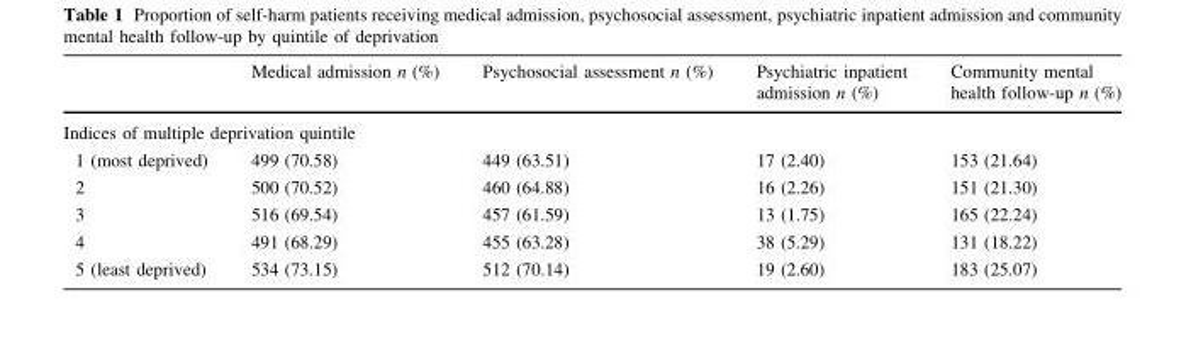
<table><thead><tr><td></td><td>Medical admission n (%)</td><td>Psychosocial assessment n (%)</td><td>Psychiatric inpatient admission n (%)</td><td>Community mental health follow-up n (%)</td></tr></thead><tbody><tr><td colspan="5">Indices of multiple deprivation quintile</td></tr><tr><td>1 (most deprived)</td><td>499 (70.58)</td><td>449 (63.51)</td><td>17 (2.40)</td><td>153 (21.64)</td></tr><tr><td>2</td><td>500 (70.52)</td><td>460 (64.88)</td><td>16 (2.26)</td><td>151 (21.30)</td></tr><tr><td>3</td><td>516 (69.54)</td><td>457 (61.59)</td><td>13 (1.75)</td><td>165 (22.24)</td></tr><tr><td>4</td><td>491 (68.29)</td><td>455 (63.28)</td><td>38 (5.29)</td><td>131 (18.22)</td></tr><tr><td>5 (least deprived)</td><td>534 (73.15)</td><td>512 (70.14)</td><td>19 (2.60)</td><td>183 (25.07)</td></tr></tbody></table>